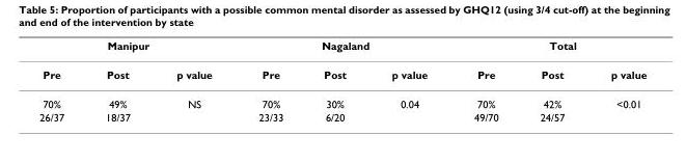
<table><thead><tr><td colspan="3">Manipur</td><td colspan="3">Nagaland</td><td colspan="3">Total</td></tr><tr><td>Pre</td><td>Post</td><td>p value</td><td>Pre</td><td>Post</td><td>p value</td><td>Pre</td><td>Post</td><td>p value</td></tr></thead><tbody><tr><td>70%</td><td>49%</td><td>NS</td><td>70%</td><td>30%</td><td>0.04</td><td>70%</td><td>42%</td><td>&lt;0.01</td></tr><tr><td>26/37</td><td>18/37</td><td></td><td>23/33</td><td>6/20</td><td></td><td>49/70</td><td>24/57</td><td></td></tr></tbody></table>